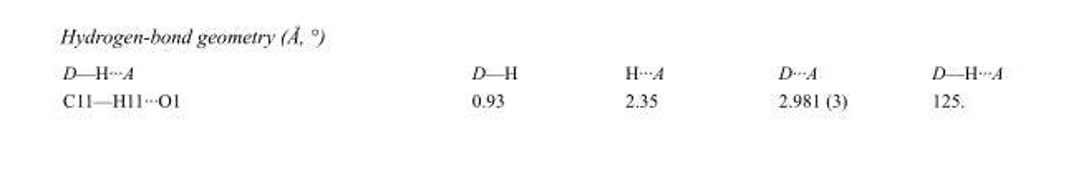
<table><tbody><tr><td>D—H···A</td><td>D—H</td><td>H···A</td><td>D···A</td><td>D—H···A</td></tr><tr><td>C11—H11···O1</td><td>0.93</td><td>2.35</td><td>2.981 (3)</td><td>125.</td></tr></tbody></table>